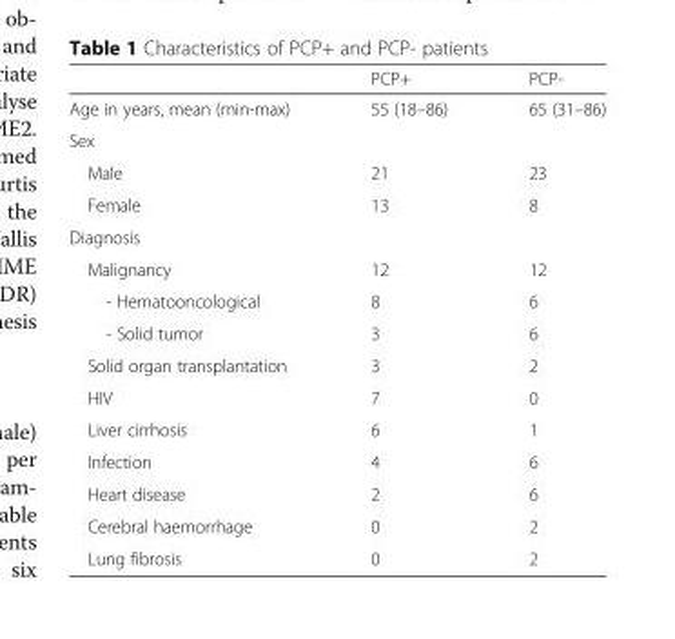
<table><thead><tr><td></td><td>PCP+</td><td>PCP-</td></tr></thead><tbody><tr><td>Age in years, mean (min-max)</td><td>55 (18–86)</td><td>65 (31–86)</td></tr><tr><td colspan="3">Sex</td></tr><tr><td>Male</td><td>21</td><td>23</td></tr><tr><td>Female</td><td>13</td><td>8</td></tr><tr><td colspan="3">Diagnosis</td></tr><tr><td>Malignancy</td><td>12</td><td>12</td></tr><tr><td>- Hematooncological</td><td>8</td><td>6</td></tr><tr><td>- Solid tumor</td><td>3</td><td>6</td></tr><tr><td>Solid organ transplantation</td><td>3</td><td>2</td></tr><tr><td>HIV</td><td>7</td><td>0</td></tr><tr><td>Liver cirrhosis</td><td>6</td><td>1</td></tr><tr><td>Infection</td><td>4</td><td>6</td></tr><tr><td>Heart disease</td><td>2</td><td>6</td></tr><tr><td>Cerebral haemorrhage</td><td>0</td><td>2</td></tr><tr><td>Lung fibrosis</td><td>0</td><td>2</td></tr></tbody></table>